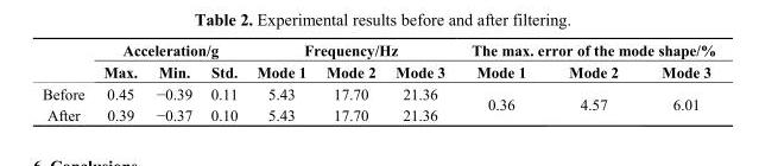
<table><thead><tr><td rowspan="2"></td><td colspan="3">Acceleration/g</td><td colspan="3">Frequency/Hz</td><td colspan="3">The max. error of the mode shape/%</td></tr><tr><td>Max.</td><td>Min.</td><td>Std.</td><td>Mode 1</td><td>Mode 2</td><td>Mode 3</td><td>Mode 1</td><td>Mode 2</td><td>Mode 3</td></tr></thead><tbody><tr><td>Before</td><td>0.45</td><td>−0.39</td><td>0.11</td><td>5.43</td><td>17.70</td><td>21.36</td><td rowspan="2">0.36</td><td rowspan="2">4.57</td><td rowspan="2">6.01</td></tr><tr><td>After</td><td>0.39</td><td>−0.37</td><td>0.10</td><td>5.43</td><td>17.70</td><td>21.36</td></tr></tbody></table>